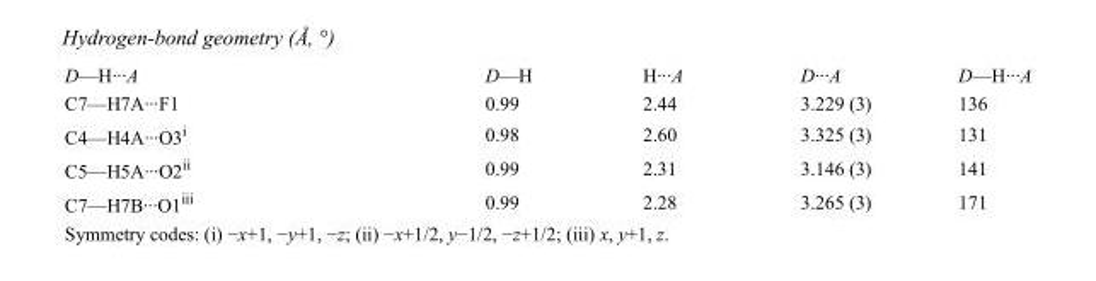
<table><tbody><tr><td>D—H···A</td><td>D—H</td><td>H···A</td><td>D···A</td><td>D—H···A</td></tr><tr><td>C7—H7A···F1</td><td>0.99</td><td>2.44</td><td>3.229 (3)</td><td>136</td></tr><tr><td>C4—H4A···O3<sup>i</sup></td><td>0.98</td><td>2.60</td><td>3.325 (3)</td><td>131</td></tr><tr><td>C5—H5A···O2<sup>ii</sup></td><td>0.99</td><td>2.31</td><td>3.146 (3)</td><td>141</td></tr><tr><td>C7—H7B···O1<sup>iii</sup></td><td>0.99</td><td>2.28</td><td>3.265 (3)</td><td>171</td></tr></tbody></table>